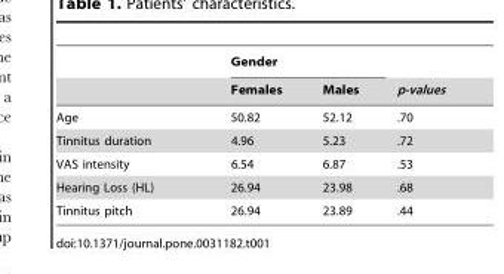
<table><thead><tr><td rowspan="2"></td><td colspan="2">Gender</td><td rowspan="2">p-values</td></tr><tr><td>Females</td><td>Males</td></tr></thead><tbody><tr><td>Age</td><td>50.82</td><td>52.12</td><td>.70</td></tr><tr><td>Tinnitus duration</td><td>4.96</td><td>5.23</td><td>.72</td></tr><tr><td>VAS intensity</td><td>6.54</td><td>6.87</td><td>.53</td></tr><tr><td>Hearing Loss (HL)</td><td>26.94</td><td>23.98</td><td>.68</td></tr><tr><td>Tinnitus pitch</td><td>26.94</td><td>23.89</td><td>.44</td></tr></tbody></table>